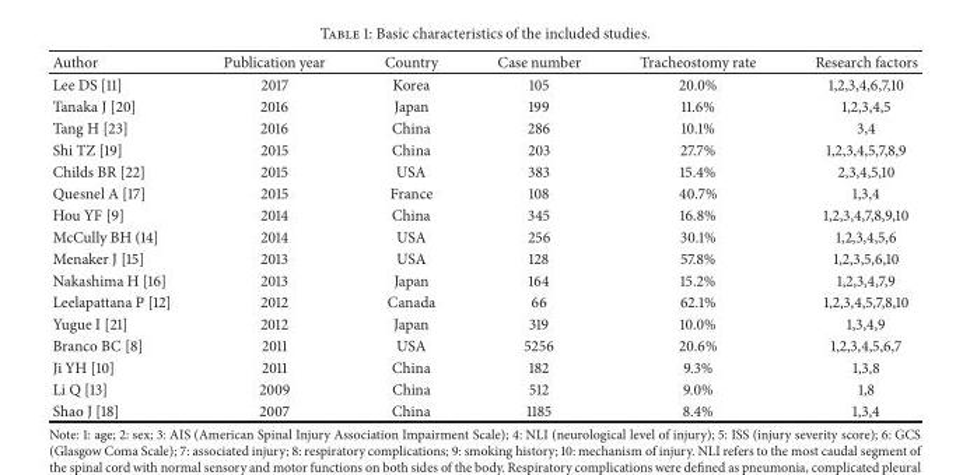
<table><thead><tr><td>Author</td><td>Publication year</td><td>Country</td><td>Case number</td><td>Tracheostomy rate</td><td>Research factors</td></tr></thead><tbody><tr><td>Lee DS [11]</td><td>2017</td><td>Korea</td><td>105</td><td>20.0%</td><td>1,2,3,4,6,7,10</td></tr><tr><td>Tanaka J [20]</td><td>2016</td><td>Japan</td><td>199</td><td>11.6%</td><td>1,2,3,4,5</td></tr><tr><td>Tang H [23]</td><td>2016</td><td>China</td><td>286</td><td>10.1%</td><td>3,4</td></tr><tr><td>Shi TZ [19]</td><td>2015</td><td>China</td><td>203</td><td>27.7%</td><td>1,2,3,4,5,7,8,9</td></tr><tr><td>Childs BR [22]</td><td>2015</td><td>USA</td><td>383</td><td>15.4%</td><td>2,3,4,5,10</td></tr><tr><td>Quesnel A [17]</td><td>2015</td><td>France</td><td>108</td><td>40.7%</td><td>1,3,4</td></tr><tr><td>Hou YF [9]</td><td>2014</td><td>China</td><td>345</td><td>16.8%</td><td>1,2,3,4,7,8,9,10</td></tr><tr><td>McCully BH (14]</td><td>2014</td><td>USA</td><td>256</td><td>30.1%</td><td>1,2,3,4,5,6</td></tr><tr><td>Menaker J [15]</td><td>2013</td><td>USA</td><td>128</td><td>57.8%</td><td>1,2,3,5,6,10</td></tr><tr><td>Nakashima H [16]</td><td>2013</td><td>Japan</td><td>164</td><td>15.2%</td><td>1,2,3,4,7,9</td></tr><tr><td>Leelapattana P [12]</td><td>2012</td><td>Canada</td><td>66</td><td>62.1%</td><td>1,2,3,4,5,7,8,10</td></tr><tr><td>Yugue I [21]</td><td>2012</td><td>Japan</td><td>319</td><td>10.0%</td><td>1,3,4,9</td></tr><tr><td>Branco BC [8]</td><td>2011</td><td>USA</td><td>5256</td><td>20.6%</td><td>1,2,3,4,5,6,7</td></tr><tr><td>Ji YH [10]</td><td>2011</td><td>China</td><td>182</td><td>9.3%</td><td>1,3,8</td></tr><tr><td>Li Q [13]</td><td>2009</td><td>China</td><td>512</td><td>9.0%</td><td>1,8</td></tr><tr><td>Shao J [18]</td><td>2007</td><td>China</td><td>1185</td><td>8.4%</td><td>1,3,4</td></tr></tbody></table>